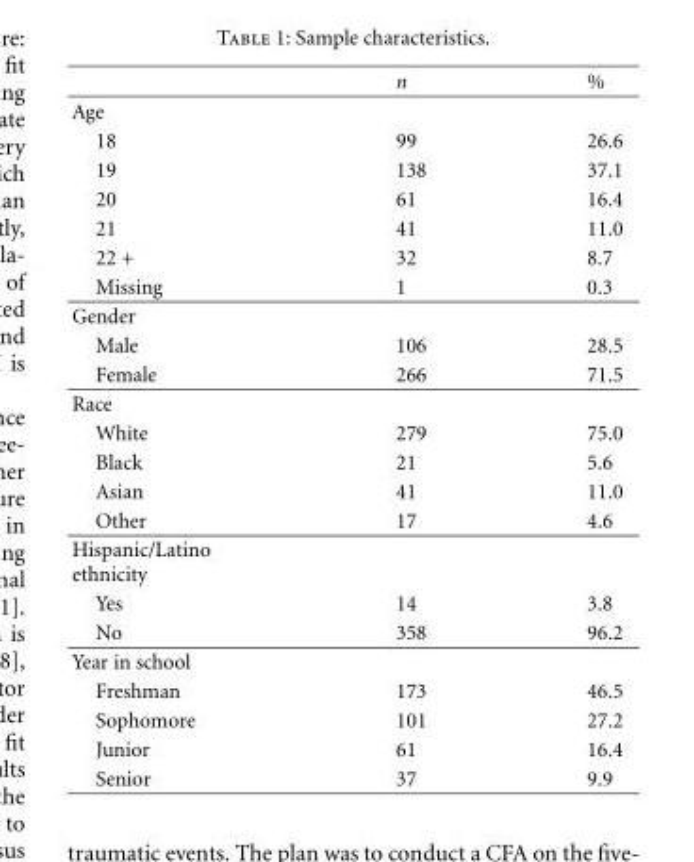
<table><thead><tr><td></td><td>n</td><td>%</td></tr></thead><tbody><tr><td colspan="3">Age</td></tr><tr><td>18</td><td>99</td><td>26.6</td></tr><tr><td>19</td><td>138</td><td>37.1</td></tr><tr><td>20</td><td>61</td><td>16.4</td></tr><tr><td>21</td><td>41</td><td>11.0</td></tr><tr><td>22 +</td><td>32</td><td>8.7</td></tr><tr><td>Missing</td><td>1</td><td>0.3</td></tr><tr><td colspan="3">Gender</td></tr><tr><td>Male</td><td>106</td><td>28.5</td></tr><tr><td>Female</td><td>266</td><td>71.5</td></tr><tr><td colspan="3">Race</td></tr><tr><td>White</td><td>279</td><td>75.0</td></tr><tr><td>Black</td><td>21</td><td>5.6</td></tr><tr><td>Asian</td><td>41</td><td>11.0</td></tr><tr><td>Other</td><td>17</td><td>4.6</td></tr><tr><td colspan="3">Hispanic/Latino ethnicity</td></tr><tr><td>Yes</td><td>14</td><td>3.8</td></tr><tr><td>No</td><td>358</td><td>96.2</td></tr><tr><td colspan="3">Year in school</td></tr><tr><td>Freshman</td><td>173</td><td>46.5</td></tr><tr><td>Sophomore</td><td>101</td><td>27.2</td></tr><tr><td>Junior</td><td>61</td><td>16.4</td></tr><tr><td>Senior</td><td>37</td><td>9.9</td></tr></tbody></table>